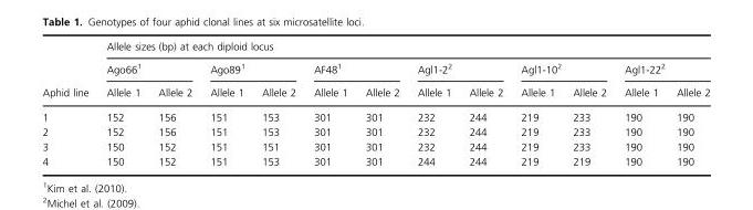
<table><thead><tr><td rowspan="3">Aphid line</td><td colspan="12">Allele sizes (bp) at each diploid locus</td></tr><tr><td colspan="2">Ago661</td><td colspan="2">Ago891</td><td colspan="2">AF481</td><td colspan="2">Agl1-22</td><td colspan="2">Agl1-102</td><td colspan="2">Agl1-222</td></tr><tr><td>Allele 1</td><td>Allele 2</td><td>Allele 1</td><td>Allele 2</td><td>Allele 1</td><td>Allele 2</td><td>Allele 1</td><td>Allele 2</td><td>Allele 1</td><td>Allele 2</td><td>Allele 1</td><td>Allele 2</td></tr></thead><tbody><tr><td>1</td><td>152</td><td>156</td><td>151</td><td>153</td><td>301</td><td>301</td><td>232</td><td>244</td><td>219</td><td>233</td><td>190</td><td>190</td></tr><tr><td>2</td><td>152</td><td>156</td><td>151</td><td>153</td><td>301</td><td>301</td><td>232</td><td>244</td><td>219</td><td>233</td><td>190</td><td>190</td></tr><tr><td>3</td><td>150</td><td>152</td><td>151</td><td>151</td><td>301</td><td>301</td><td>232</td><td>244</td><td>219</td><td>233</td><td>190</td><td>190</td></tr><tr><td>4</td><td>150</td><td>152</td><td>151</td><td>153</td><td>301</td><td>301</td><td>244</td><td>244</td><td>219</td><td>219</td><td>190</td><td>190</td></tr></tbody></table>